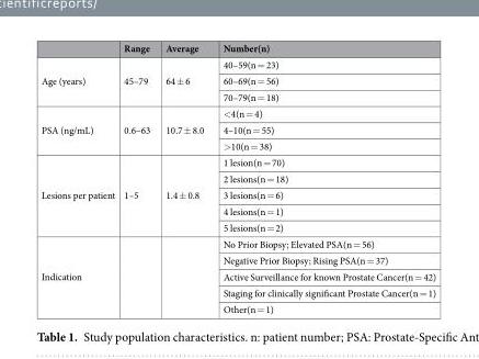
<table><thead><tr><td></td><td>Range</td><td>Average</td><td>Number(n)</td></tr></thead><tbody><tr><td rowspan="3">Age (years)</td><td rowspan="3">45–79</td><td rowspan="3">64 ± 6</td><td>40–59(n = 23)</td></tr><tr><td>60–69(n = 56)</td></tr><tr><td>70–79(n = 18)</td></tr><tr><td rowspan="3">PSA (ng/mL)</td><td rowspan="3">0.6–63</td><td rowspan="3">10.7 ± 8.0</td><td>&lt;4(n = 4)</td></tr><tr><td>4–10(n = 55)</td></tr><tr><td>&gt;10(n = 38)</td></tr><tr><td rowspan="5">Lesions per patient</td><td rowspan="5">1–5</td><td rowspan="5">1.4 ± 0.8</td><td>1 lesion(n = 70)</td></tr><tr><td>2 lesions(n = 18)</td></tr><tr><td>3 lesions(n = 6)</td></tr><tr><td>4 lesions(n = 1)</td></tr><tr><td>5 lesions(n = 2)</td></tr><tr><td rowspan="5">Indication</td><td rowspan="5"></td><td rowspan="5"></td><td>No Prior Biopsy; Elevated PSA(n = 56)</td></tr><tr><td>Negative Prior Biopsy; Rising PSA(n = 37)</td></tr><tr><td>Active Surveillance for known Prostate Cancer(n = 42)</td></tr><tr><td>Staging for clinically significant Prostate Cancer(n = 1)</td></tr><tr><td>Other(n = 1)</td></tr></tbody></table>